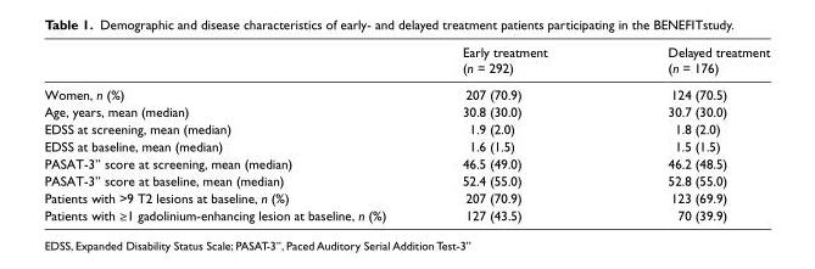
<table><thead><tr><td></td><td>Early treatment (n = 292)</td><td>Delayed treatment (n = 176)</td></tr></thead><tbody><tr><td>Women, n (%)</td><td>207 (70.9)</td><td>124 (70.5)</td></tr><tr><td>Age, years, mean (median)</td><td>30.8 (30.0)</td><td>30.7 (30.0)</td></tr><tr><td>EDSS at screening, mean (median)</td><td>1.9 (2.0)</td><td>1.8 (2.0)</td></tr><tr><td>EDSS at baseline, mean (median)</td><td>1.6 (1.5)</td><td>1.5 (1.5)</td></tr><tr><td>PASAT-3” score at screening, mean (median)</td><td>46.5 (49.0)</td><td>46.2 (48.5)</td></tr><tr><td>PASAT-3” score at baseline, mean (median)</td><td>52.4 (55.0)</td><td>52.8 (55.0)</td></tr><tr><td>Patients with &gt;9 T2 lesions at baseline, n (%)</td><td>207 (70.9)</td><td>123 (69.9)</td></tr><tr><td>Patients with ≥1 gadolinium-enhancing lesion at baseline, n (%)</td><td>127 (43.5)</td><td>70 (39.9)</td></tr></tbody></table>